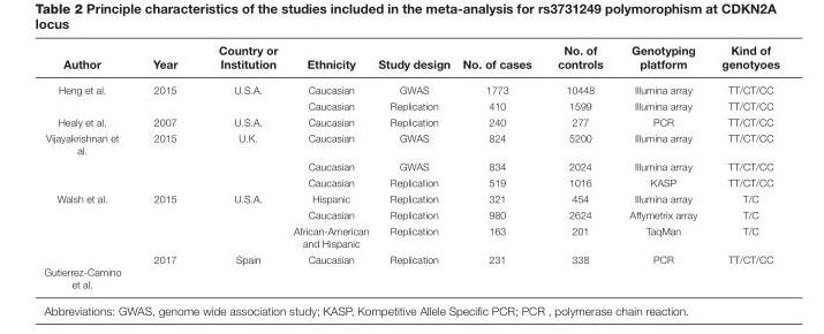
<table><thead><tr><td>Author</td><td>Year</td><td>Country or Institution</td><td>Ethnicity</td><td>Study design</td><td>No. of cases</td><td>No. of controls</td><td>Genotyping platform</td><td>Kind of genotyoes</td></tr></thead><tbody><tr><td rowspan="2">Heng et al.</td><td>2015</td><td>U.S.A.</td><td>Caucasian</td><td>GWAS</td><td>1773</td><td>10448</td><td>Illumina array</td><td>TT/CT/CC</td></tr><tr><td></td><td></td><td>Caucasian</td><td>Replication</td><td>410</td><td>1599</td><td>Illumina array</td><td>TT/CT/CC</td></tr><tr><td>Healy et al.</td><td>2007</td><td>U.S.A.</td><td>Caucasian</td><td>Replication</td><td>240</td><td>277</td><td>PCR</td><td>TT/CT/CC</td></tr><tr><td rowspan="3">Vijayakrishnan et al.</td><td>2015</td><td>U.K.</td><td>Caucasian</td><td>GWAS</td><td>824</td><td>5200</td><td>Illumina array</td><td>TT/CT/CC</td></tr><tr><td></td><td></td><td>Caucasian</td><td>GWAS</td><td>834</td><td>2024</td><td>Illumina array</td><td>TT/CT/CC</td></tr><tr><td></td><td></td><td>Caucasian</td><td>Replication</td><td>519</td><td>1016</td><td>KASP</td><td>TT/CT/CC</td></tr><tr><td rowspan="3">Walsh et al.</td><td>2015</td><td>U.S.A.</td><td>Hispanic</td><td>Replication</td><td>321</td><td>454</td><td>Illumina array</td><td>T/C</td></tr><tr><td></td><td></td><td>Caucasian</td><td>Replication</td><td>980</td><td>2624</td><td>Affymetrix array</td><td>T/C</td></tr><tr><td></td><td></td><td>African-American and Hispanic</td><td>Replication</td><td>163</td><td>201</td><td>TaqMan</td><td>T/C</td></tr><tr><td>Gutierrez-Camino et al.</td><td>2017</td><td>Spain</td><td>Caucasian</td><td>Replication</td><td>231</td><td>338</td><td>PCR</td><td>TT/CT/CC</td></tr></tbody></table>